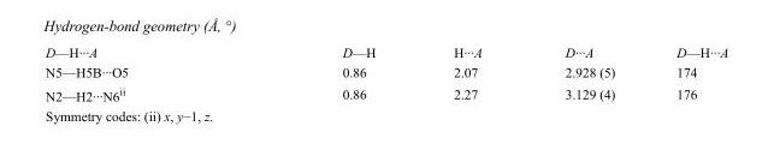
<table><tbody><tr><td>D—H···A</td><td>D—H</td><td>H···A</td><td>D···A</td><td>D—H···A</td></tr><tr><td>N5—H5B···O5</td><td>0.86</td><td>2.07</td><td>2.928 (5)</td><td>174</td></tr><tr><td>N2—H2···N6<sup>ii</sup></td><td>0.86</td><td>2.27</td><td>3.129 (4)</td><td>176</td></tr></tbody></table>